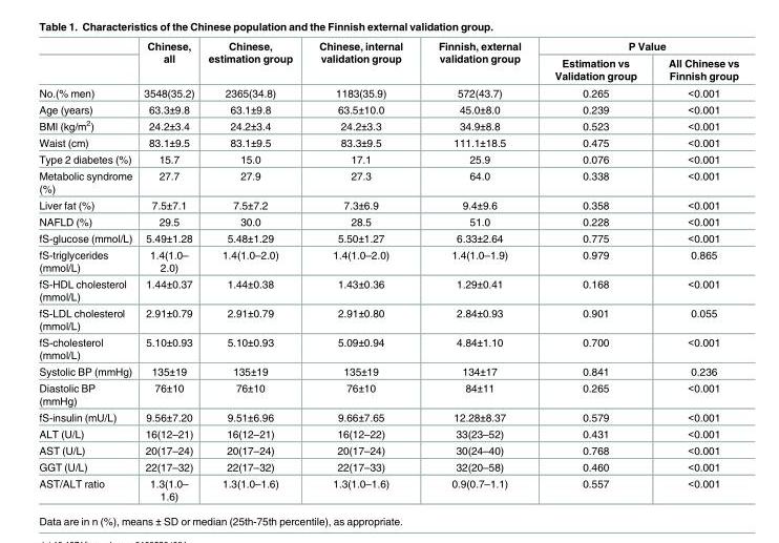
<table><thead><tr><td rowspan="2"></td><td rowspan="2">Chinese, all</td><td rowspan="2">Chinese, estimation group</td><td rowspan="2">Chinese, internal validation group</td><td rowspan="2">Finnish, external validation group</td><td colspan="2">P Value</td></tr><tr><td>Estimation vs Validation group</td><td>All Chinese vs Finnish group</td></tr></thead><tbody><tr><td>No.(% men)</td><td>3548(35.2)</td><td>2365(34.8)</td><td>1183(35.9)</td><td>572(43.7)</td><td>0.265</td><td>&lt;0.001</td></tr><tr><td>Age (years)</td><td>63.3±9.8</td><td>63.1±9.8</td><td>63.5±10.0</td><td>45.0±8.0</td><td>0.239</td><td>&lt;0.001</td></tr><tr><td>BMI (kg/m<sup>2</sup>)</td><td>24.2±3.4</td><td>24.2±3.4</td><td>24.2±3.3</td><td>34.9±8.8</td><td>0.523</td><td>&lt;0.001</td></tr><tr><td>Waist (cm)</td><td>83.1±9.5</td><td>83.1±9.5</td><td>83.3±9.5</td><td>111.1±18.5</td><td>0.475</td><td>&lt;0.001</td></tr><tr><td>Type 2 diabetes (%)</td><td>15.7</td><td>15.0</td><td>17.1</td><td>25.9</td><td>0.076</td><td>&lt;0.001</td></tr><tr><td>Metabolic syndrome (%)</td><td>27.7</td><td>27.9</td><td>27.3</td><td>64.0</td><td>0.338</td><td>&lt;0.001</td></tr><tr><td>Liver fat (%)</td><td>7.5±7.1</td><td>7.5±7.2</td><td>7.3±6.9</td><td>9.4±9.6</td><td>0.358</td><td>&lt;0.001</td></tr><tr><td>NAFLD (%)</td><td>29.5</td><td>30.0</td><td>28.5</td><td>51.0</td><td>0.228</td><td>&lt;0.001</td></tr><tr><td>fS-glucose (mmol/L)</td><td>5.49±1.28</td><td>5.48±1.29</td><td>5.50±1.27</td><td>6.33±2.64</td><td>0.775</td><td>&lt;0.001</td></tr><tr><td>fS-triglycerides (mmol/L)</td><td>1.4(1.0– 2.0)</td><td>1.4(1.0–2.0)</td><td>1.4(1.0–2.0)</td><td>1.4(1.0–1.9)</td><td>0.979</td><td>0.865</td></tr><tr><td>fS-HDL cholesterol (mmol/L)</td><td>1.44±0.37</td><td>1.44±0.38</td><td>1.43±0.36</td><td>1.29±0.41</td><td>0.168</td><td>&lt;0.001</td></tr><tr><td>fS-LDL cholesterol (mmol/L)</td><td>2.91±0.79</td><td>2.91±0.79</td><td>2.91±0.80</td><td>2.84±0.93</td><td>0.901</td><td>0.055</td></tr><tr><td>fS-cholesterol (mmol/L)</td><td>5.10±0.93</td><td>5.10±0.93</td><td>5.09±0.94</td><td>4.84±1.10</td><td>0.700</td><td>&lt;0.001</td></tr><tr><td>Systolic BP (mmHg)</td><td>135±19</td><td>135±19</td><td>135±19</td><td>134±17</td><td>0.841</td><td>0.236</td></tr><tr><td>Diastolic BP (mmHg)</td><td>76±10</td><td>76±10</td><td>76±10</td><td>84±11</td><td>0.265</td><td>&lt;0.001</td></tr><tr><td>fS-insulin (mU/L)</td><td>9.56±7.20</td><td>9.51±6.96</td><td>9.66±7.65</td><td>12.28±8.37</td><td>0.579</td><td>&lt;0.001</td></tr><tr><td>ALT (U/L)</td><td>16(12–21)</td><td>16(12–21)</td><td>16(12–22)</td><td>33(23–52)</td><td>0.431</td><td>&lt;0.001</td></tr><tr><td>AST (U/L)</td><td>20(17–24)</td><td>20(17–24)</td><td>20(17–24)</td><td>30(24–40)</td><td>0.768</td><td>&lt;0.001</td></tr><tr><td>GGT (U/L)</td><td>22(17–32)</td><td>22(17–32)</td><td>22(17–33)</td><td>32(20–58)</td><td>0.460</td><td>&lt;0.001</td></tr><tr><td>AST/ALT ratio</td><td>1.3(1.0– 1.6)</td><td>1.3(1.0–1.6)</td><td>1.3(1.0–1.6)</td><td>0.9(0.7–1.1)</td><td>0.557</td><td>&lt;0.001</td></tr></tbody></table>